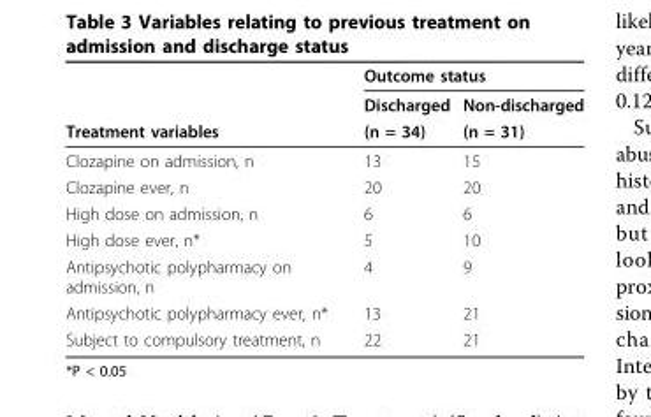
<table><thead><tr><td rowspan="3">Treatment variables</td><td colspan="2">Outcome status</td></tr><tr><td rowspan="2">Discharged (n = 34)</td><td rowspan="2">Non-discharged (n = 31)</td></tr><tr></tr></thead><tbody><tr><td>Clozapine on admission, n</td><td>13</td><td>15</td></tr><tr><td>Clozapine ever, n</td><td>20</td><td>20</td></tr><tr><td>High dose on admission, n</td><td>6</td><td>6</td></tr><tr><td>High dose ever, n*</td><td>5</td><td>10</td></tr><tr><td>Antipsychotic polypharmacy on admission, n</td><td>4</td><td>9</td></tr><tr><td>Antipsychotic polypharmacy ever, n*</td><td>13</td><td>21</td></tr><tr><td>Subject to compulsory treatment, n</td><td>22</td><td>21</td></tr></tbody></table>